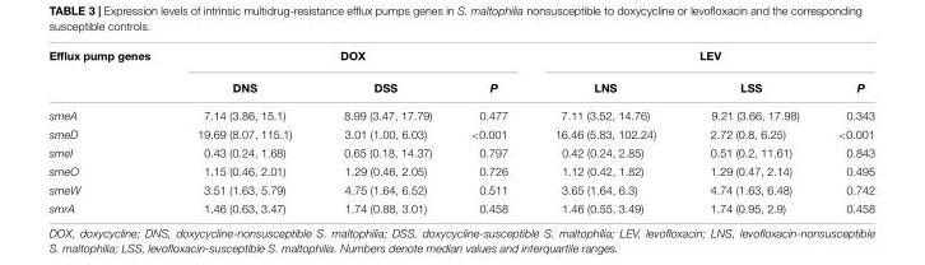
<table><thead><tr><td rowspan="2">Efflux pump genes</td><td colspan="3">DOX</td><td colspan="3">LEV</td></tr><tr><td>DNS</td><td>DSS</td><td>P</td><td>LNS</td><td>LSS</td><td>P</td></tr></thead><tbody><tr><td>smeA</td><td>7.14 (3.86, 15.1)</td><td>8.99 (3.47, 17.79)</td><td>0.477</td><td>7.11 (3.52, 14.76)</td><td>9.21 (3.66, 17.98)</td><td>0.343</td></tr><tr><td>smeD</td><td>19.69 (8.07, 115.1)</td><td>3.01 (1.00, 6.03)</td><td>&lt;0.001</td><td>16.46 (5.83, 102.24)</td><td>2.72 (0.8, 6.25)</td><td>&lt;0.001</td></tr><tr><td>smeI</td><td>0.43 (0.24, 1.68)</td><td>0.65 (0.18, 14.37)</td><td>0.797</td><td>0.42 (0.24, 2.85)</td><td>0.51 (0.2, 11.61)</td><td>0.843</td></tr><tr><td>smeO</td><td>1.15 (0.46, 2.01)</td><td>1.29 (0.46, 2.05)</td><td>0.726</td><td>1.12 (0.42, 1.82)</td><td>1.29 (0.47, 2.14)</td><td>0.495</td></tr><tr><td>smeW</td><td>3.51 (1.63, 5.79)</td><td>4.75 (1.64, 6.52)</td><td>0.511</td><td>3.65 (1.64, 6.3)</td><td>4.74 (1.63, 6.48)</td><td>0.742</td></tr><tr><td>smrA</td><td>1.46 (0.63, 3.47)</td><td>1.74 (0.88, 3.01)</td><td>0.458</td><td>1.46 (0.55, 3.49)</td><td>1.74 (0.95, 2.9)</td><td>0.458</td></tr></tbody></table>